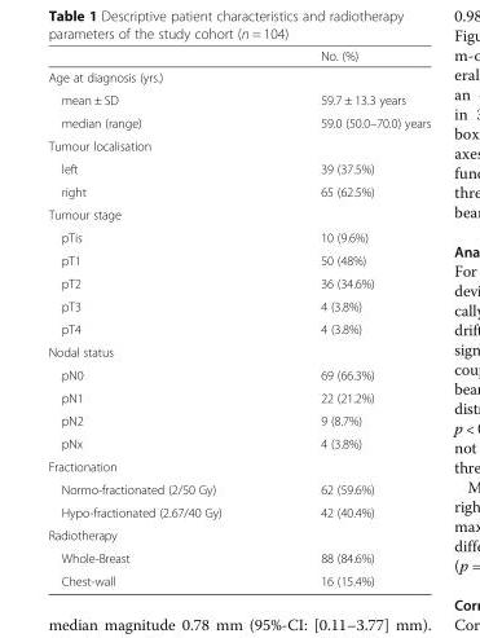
<table><thead><tr><td></td><td>No. (%)</td></tr></thead><tbody><tr><td colspan="2">Age at diagnosis (yrs.)</td></tr><tr><td>mean ± SD</td><td>59.7 ± 13.3 years</td></tr><tr><td>median (range)</td><td>59.0 (50.0–70.0) years</td></tr><tr><td colspan="2">Tumour localisation</td></tr><tr><td>left</td><td>39 (37.5%)</td></tr><tr><td>right</td><td>65 (62.5%)</td></tr><tr><td colspan="2">Tumour stage</td></tr><tr><td>pTis</td><td>10 (9.6%)</td></tr><tr><td>pT1</td><td>50 (48%)</td></tr><tr><td>pT2</td><td>36 (34.6%)</td></tr><tr><td>pT3</td><td>4 (3.8%)</td></tr><tr><td>pT4</td><td>4 (3.8%)</td></tr><tr><td colspan="2">Nodal status</td></tr><tr><td>pN0</td><td>69 (66.3%)</td></tr><tr><td>pN1</td><td>22 (21.2%)</td></tr><tr><td>pN2</td><td>9 (8.7%)</td></tr><tr><td>pNx</td><td>4 (3.8%)</td></tr><tr><td colspan="2">Fractionation</td></tr><tr><td>Normo-fractionated (2/50 Gy)</td><td>62 (59.6%)</td></tr><tr><td>Hypo-fractionated (2.67/40 Gy)</td><td>42 (40.4%)</td></tr><tr><td colspan="2">Radiotherapy</td></tr><tr><td>Whole-Breast</td><td>88 (84.6%)</td></tr><tr><td>Chest-wall</td><td>16 (15.4%)</td></tr></tbody></table>